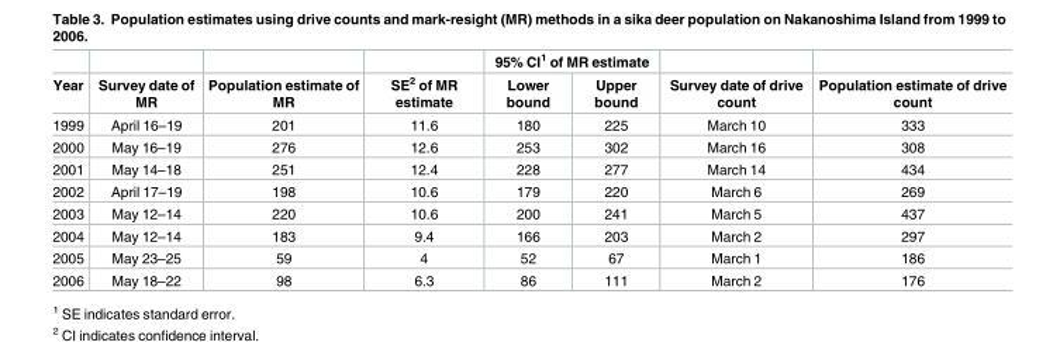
<table><thead><tr><td rowspan="2">Year</td><td rowspan="2">Survey date of MR</td><td rowspan="2">Population estimate of MR</td><td rowspan="2">SE<sup>2</sup> of MR estimate</td><td colspan="2">95% CI<sup>1</sup> of MR estimate</td><td rowspan="2">Survey date of drive count</td><td rowspan="2">Population estimate of drive count</td></tr><tr><td>Lower bound</td><td>Upper bound</td></tr></thead><tbody><tr><td>1999</td><td>April 16–19</td><td>201</td><td>11.6</td><td>180</td><td>225</td><td>March 10</td><td>333</td></tr><tr><td>2000</td><td>May 16–19</td><td>276</td><td>12.6</td><td>253</td><td>302</td><td>March 16</td><td>308</td></tr><tr><td>2001</td><td>May 14–18</td><td>251</td><td>12.4</td><td>228</td><td>277</td><td>March 14</td><td>434</td></tr><tr><td>2002</td><td>April 17–19</td><td>198</td><td>10.6</td><td>179</td><td>220</td><td>March 6</td><td>269</td></tr><tr><td>2003</td><td>May 12–14</td><td>220</td><td>10.6</td><td>200</td><td>241</td><td>March 5</td><td>437</td></tr><tr><td>2004</td><td>May 12–14</td><td>183</td><td>9.4</td><td>166</td><td>203</td><td>March 2</td><td>297</td></tr><tr><td>2005</td><td>May 23–25</td><td>59</td><td>4</td><td>52</td><td>67</td><td>March 1</td><td>186</td></tr><tr><td>2006</td><td>May 18–22</td><td>98</td><td>6.3</td><td>86</td><td>111</td><td>March 2</td><td>176</td></tr></tbody></table>